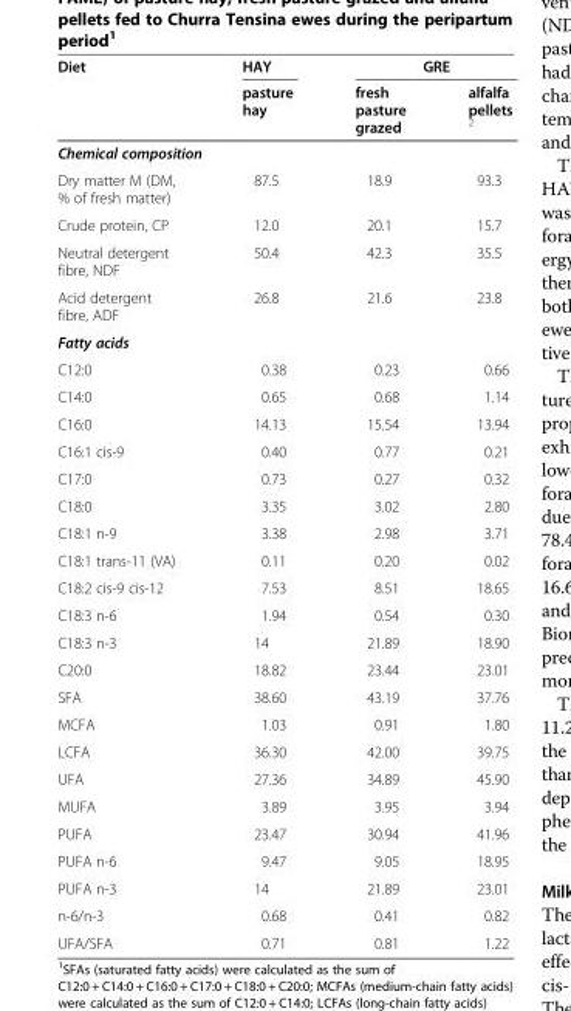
<table><thead><tr><td rowspan="2">Diet</td><td rowspan="2">HAY pasture hay</td><td colspan="2">GRE</td></tr><tr><td>fresh pasture grazed</td><td>alfalfa pellets <sup>2</sup></td></tr></thead><tbody><tr><td colspan="4">Chemical composition</td></tr><tr><td>Dry matter M (DM, % of fresh matter)</td><td>87.5</td><td>18.9</td><td>93.3</td></tr><tr><td>Crude protein, CP</td><td>12.0</td><td>20.1</td><td>15.7</td></tr><tr><td>Neutral detergent fibre, NDF</td><td>50.4</td><td>42.3</td><td>35.5</td></tr><tr><td>Acid detergent fibre, ADF</td><td>26.8</td><td>21.6</td><td>23.8</td></tr><tr><td colspan="4">Fatty acids</td></tr><tr><td>C12:0</td><td>0.38</td><td>0.23</td><td>0.66</td></tr><tr><td>C14:0</td><td>0.65</td><td>0.68</td><td>1.14</td></tr><tr><td>C16:0</td><td>14.13</td><td>15.54</td><td>13.94</td></tr><tr><td>C16:1 cis-9</td><td>0.40</td><td>0.77</td><td>0.21</td></tr><tr><td>C17:0</td><td>0.73</td><td>0.27</td><td>0.32</td></tr><tr><td>C18:0</td><td>3.35</td><td>3.02</td><td>2.80</td></tr><tr><td>C18:1 n-9</td><td>3.38</td><td>2.98</td><td>3.71</td></tr><tr><td>C18:1 trans-11 (VA)</td><td>0.11</td><td>0.20</td><td>0.02</td></tr><tr><td>C18:2 cis-9 cis-12</td><td>7.53</td><td>8.51</td><td>18.65</td></tr><tr><td>C18:3 n-6</td><td>1.94</td><td>0.54</td><td>0.30</td></tr><tr><td>C18:3 n-3</td><td>14</td><td>21.89</td><td>18.90</td></tr><tr><td>C20:0</td><td>18.82</td><td>23.44</td><td>23.01</td></tr><tr><td>SFA</td><td>38.60</td><td>43.19</td><td>37.76</td></tr><tr><td>MCFA</td><td>1.03</td><td>0.91</td><td>1.80</td></tr><tr><td>LCFA</td><td>36.30</td><td>42.00</td><td>39.75</td></tr><tr><td>UFA</td><td>27.36</td><td>34.89</td><td>45.90</td></tr><tr><td>MUFA</td><td>3.89</td><td>3.95</td><td>3.94</td></tr><tr><td>PUFA</td><td>23.47</td><td>30.94</td><td>41.96</td></tr><tr><td>PUFA n-6</td><td>9.47</td><td>9.05</td><td>18.95</td></tr><tr><td>PUFA n-3</td><td>14</td><td>21.89</td><td>23.01</td></tr><tr><td>n-6/n-3</td><td>0.68</td><td>0.41</td><td>0.82</td></tr><tr><td>UFA/SFA</td><td>0.71</td><td>0.81</td><td>1.22</td></tr></tbody></table>